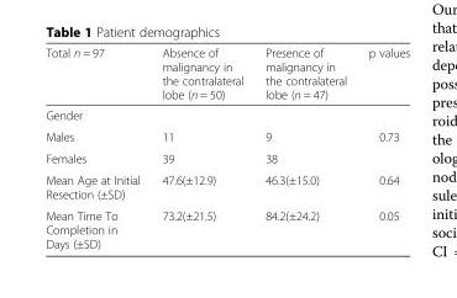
<table><thead><tr><td>Total n = 97</td><td>Absence of malignancy in the contralateral lobe (n = 50)</td><td>Presence of malignancy in the contralateral lobe (n = 47)</td><td>p values</td></tr></thead><tbody><tr><td colspan="4">Gender</td></tr><tr><td>Males</td><td>11</td><td>9</td><td>0.73</td></tr><tr><td>Females</td><td>39</td><td>38</td><td></td></tr><tr><td>Mean Age at Initial Resection (±SD)</td><td>47.6(±12.9)</td><td>46.3(±15.0)</td><td>0.64</td></tr><tr><td>Mean Time To Completion in Days (±SD)</td><td>73.2(±21.5)</td><td>84.2(±24.2)</td><td>0.05</td></tr></tbody></table>